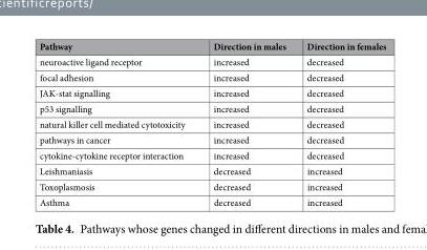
<table><thead><tr><td>Pathway</td><td>Direction in males</td><td>Direction in females</td></tr></thead><tbody><tr><td>neuroactive ligand receptor</td><td>increased</td><td>decreased</td></tr><tr><td>focal adhesion</td><td>increased</td><td>decreased</td></tr><tr><td>JAK-stat signalling</td><td>increased</td><td>decreased</td></tr><tr><td>p53 signalling</td><td>increased</td><td>decreased</td></tr><tr><td>natural killer cell mediated cytotoxicity</td><td>increased</td><td>decreased</td></tr><tr><td>pathways in cancer</td><td>increased</td><td>decreased</td></tr><tr><td>cytokine-cytokine receptor interaction</td><td>increased</td><td>decreased</td></tr><tr><td>Leishmaniasis</td><td>decreased</td><td>increased</td></tr><tr><td>Toxoplasmosis</td><td>decreased</td><td>increased</td></tr><tr><td>Asthma</td><td>decreased</td><td>increased</td></tr></tbody></table>